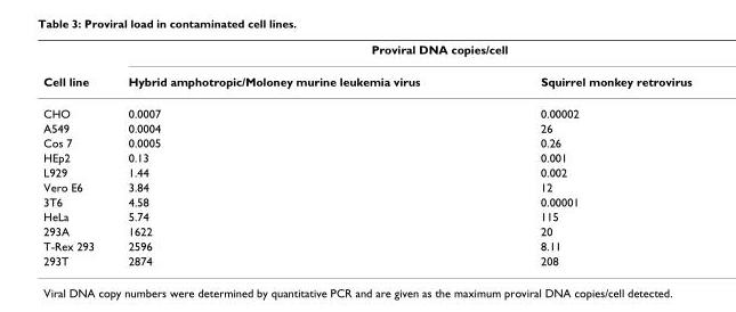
<table><thead><tr><td rowspan="2">Cell line</td><td colspan="2">Proviral DNA copies/cell</td></tr><tr><td>Hybrid amphotropic/Moloney murine leukemia virus</td><td>Squirrel monkey retrovirus</td></tr></thead><tbody><tr><td>CHO</td><td>0.0007</td><td>0.00002</td></tr><tr><td>A549</td><td>0.0004</td><td>26</td></tr><tr><td>Cos 7</td><td>0.0005</td><td>0.26</td></tr><tr><td>HEp2</td><td>0.13</td><td>0.001</td></tr><tr><td>L929</td><td>1.44</td><td>0.002</td></tr><tr><td>Vero E6</td><td>3.84</td><td>12</td></tr><tr><td>3T6</td><td>4.58</td><td>0.00001</td></tr><tr><td>HeLa</td><td>5.74</td><td>115</td></tr><tr><td>293A</td><td>1622</td><td>20</td></tr><tr><td>T-Rex 293</td><td>2596</td><td>8.11</td></tr><tr><td>293T</td><td>2874</td><td>208</td></tr></tbody></table>